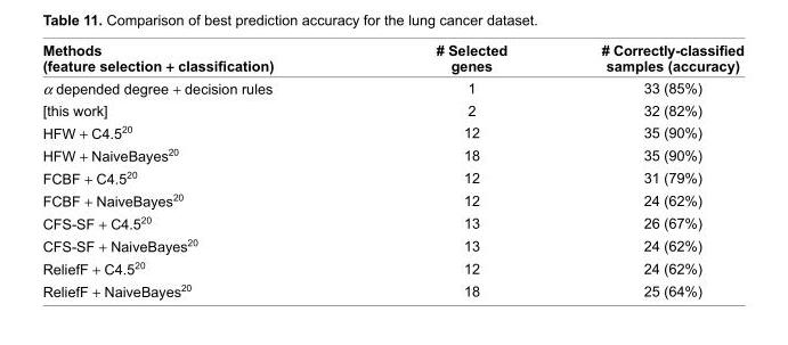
<table><thead><tr><td>Methods (feature selection + classifi cation)</td><td># Selected genes</td><td># Correctly-classifi ed samples (accuracy)</td></tr></thead><tbody><tr><td>α depended degree + decision rules</td><td>1</td><td>33 (85%)</td></tr><tr><td>[this work]</td><td>2</td><td>32 (82%)</td></tr><tr><td>HFW + C4.5<sup>20</sup></td><td>12</td><td>35 (90%)</td></tr><tr><td>HFW + NaiveBayes<sup>20</sup></td><td>18</td><td>35 (90%)</td></tr><tr><td>FCBF + C4.5<sup>20</sup></td><td>12</td><td>31 (79%)</td></tr><tr><td>FCBF + NaiveBayes<sup>20</sup></td><td>12</td><td>24 (62%)</td></tr><tr><td>CFS-SF + C4.5<sup>20</sup></td><td>13</td><td>26 (67%)</td></tr><tr><td>CFS-SF + NaiveBayes<sup>20</sup></td><td>13</td><td>24 (62%)</td></tr><tr><td>ReliefF + C4.5<sup>20</sup></td><td>12</td><td>24 (62%)</td></tr><tr><td>ReliefF + NaiveBayes<sup>20</sup></td><td>18</td><td>25 (64%)</td></tr></tbody></table>